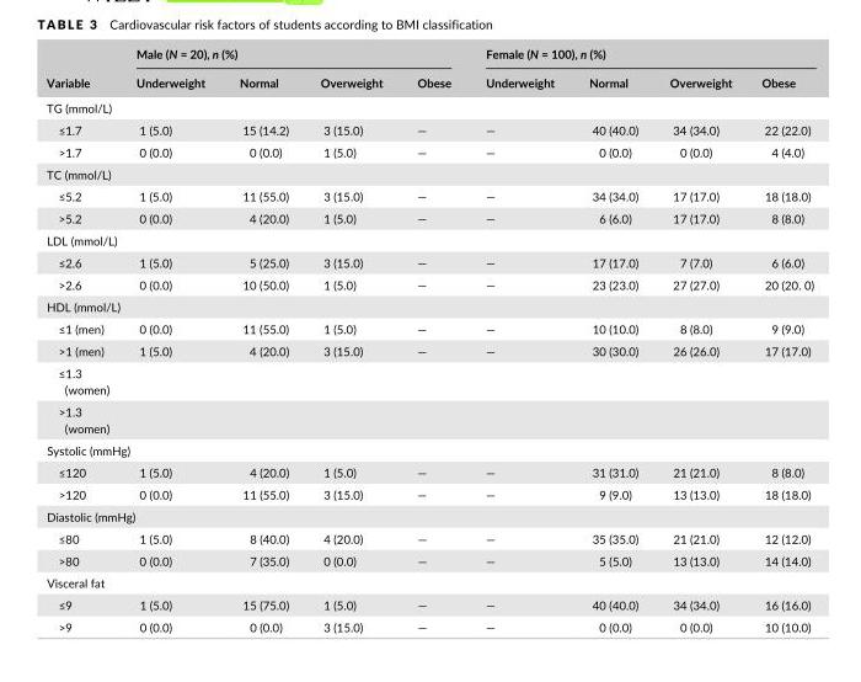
<table><thead><tr><td rowspan="2">Variable</td><td colspan="4">Male (N = 20), n (%)</td><td colspan="4">Female (N = 100), n (%)</td></tr><tr><td>Underweight</td><td>Normal</td><td>Overweight</td><td>Obese</td><td>Underweight</td><td>Normal</td><td>Overweight</td><td>Obese</td></tr></thead><tbody><tr><td colspan="9">TG (mmol/L)</td></tr><tr><td>≤1.7</td><td>1 (5.0)</td><td>15 (14.2)</td><td>3 (15.0)</td><td>—</td><td>—</td><td>40 (40.0)</td><td>34 (34.0)</td><td>22 (22.0)</td></tr><tr><td>&gt;1.7</td><td>0 (0.0)</td><td>0 (0.0)</td><td>1 (5.0)</td><td>—</td><td>—</td><td>0 (0.0)</td><td>0 (0.0)</td><td>4 (4.0)</td></tr><tr><td colspan="9">TC (mmol/L)</td></tr><tr><td>≤5.2</td><td>1 (5.0)</td><td>11 (55.0)</td><td>3 (15.0)</td><td>—</td><td>—</td><td>34 (34.0)</td><td>17 (17.0)</td><td>18 (18.0)</td></tr><tr><td>&gt;5.2</td><td>0 (0.0)</td><td>4 (20.0)</td><td>1 (5.0)</td><td>—</td><td>—</td><td>6 (6.0)</td><td>17 (17.0)</td><td>8 (8.0)</td></tr><tr><td colspan="9">LDL (mmol/L)</td></tr><tr><td>≤2.6</td><td>1 (5.0)</td><td>5 (25.0)</td><td>3 (15.0)</td><td>—</td><td>—</td><td>17 (17.0)</td><td>7 (7.0)</td><td>6 (6.0)</td></tr><tr><td>&gt;2.6</td><td>0 (0.0)</td><td>10 (50.0)</td><td>1 (5.0)</td><td>—</td><td>—</td><td>23 (23.0)</td><td>27 (27.0)</td><td>20 (20. 0)</td></tr><tr><td colspan="9">HDL (mmol/L)</td></tr><tr><td>≤1 (men)</td><td>0 (0.0)</td><td>11 (55.0)</td><td>1 (5.0)</td><td>—</td><td>—</td><td>10 (10.0)</td><td>8 (8.0)</td><td>9 (9.0)</td></tr><tr><td>&gt;1 (men)</td><td>1 (5.0)</td><td>4 (20.0)</td><td>3 (15.0)</td><td>—</td><td>—</td><td>30 (30.0)</td><td>26 (26.0)</td><td>17 (17.0)</td></tr><tr><td colspan="9">≤1.3 (women)</td></tr><tr><td colspan="9">&gt;1.3 (women)</td></tr><tr><td colspan="9">Systolic (mmHg)</td></tr><tr><td>≤120</td><td>1 (5.0)</td><td>4 (20.0)</td><td>1 (5.0)</td><td>—</td><td>—</td><td>31 (31.0)</td><td>21 (21.0)</td><td>8 (8.0)</td></tr><tr><td>&gt;120</td><td>0 (0.0)</td><td>11 (55.0)</td><td>3 (15.0)</td><td>—</td><td>—</td><td>9 (9.0)</td><td>13 (13.0)</td><td>18 (18.0)</td></tr><tr><td colspan="9">Diastolic (mmHg)</td></tr><tr><td>≤80</td><td>1 (5.0)</td><td>8 (40.0)</td><td>4 (20.0)</td><td>—</td><td>—</td><td>35 (35.0)</td><td>21 (21.0)</td><td>12 (12.0)</td></tr><tr><td>&gt;80</td><td>0 (0.0)</td><td>7 (35.0)</td><td>0 (0.0)</td><td>—</td><td>—</td><td>5 (5.0)</td><td>13 (13.0)</td><td>14 (14.0)</td></tr><tr><td colspan="9">Visceral fat</td></tr><tr><td>≤9</td><td>1 (5.0)</td><td>15 (75.0)</td><td>1 (5.0)</td><td>—</td><td>—</td><td>40 (40.0)</td><td>34 (34.0)</td><td>16 (16.0)</td></tr><tr><td>&gt;9</td><td>0 (0.0)</td><td>0 (0.0)</td><td>3 (15.0)</td><td>—</td><td>—</td><td>0 (0.0)</td><td>0 (0.0)</td><td>10 (10.0)</td></tr></tbody></table>